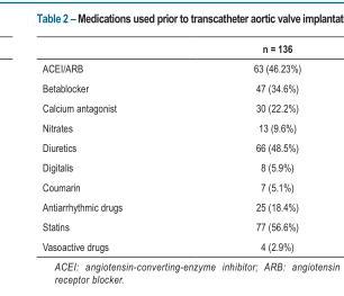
<table><thead><tr><td></td><td>n = 136</td></tr></thead><tbody><tr><td>ACEI/ARB</td><td>63 (46.23%)</td></tr><tr><td>Betablocker</td><td>47 (34.6%)</td></tr><tr><td>Calcium antagonist</td><td>30 (22.2%)</td></tr><tr><td>Nitrates</td><td>13 (9.6%)</td></tr><tr><td>Diuretics</td><td>66 (48.5%)</td></tr><tr><td>Digitalis</td><td>8 (5.9%)</td></tr><tr><td>Coumarin</td><td>7 (5.1%)</td></tr><tr><td>Antiarrhythmic drugs</td><td>25 (18.4%)</td></tr><tr><td>Statins</td><td>77 (56.6%)</td></tr><tr><td>Vasoactive drugs</td><td>4 (2.9%)</td></tr></tbody></table>